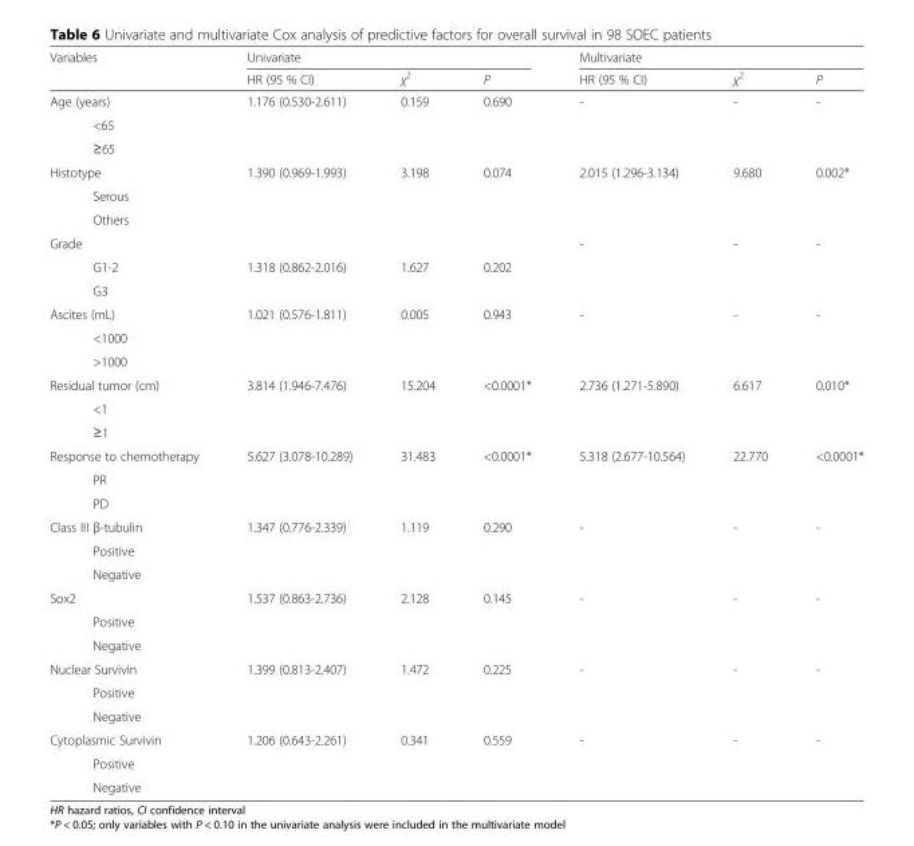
<table><thead><tr><td rowspan="2">Variables</td><td colspan="3">Univariate</td><td colspan="3">Multivariate</td></tr><tr><td>HR (95 % CI)</td><td>χ<sup>2</sup></td><td>P</td><td>HR (95 % CI)</td><td>χ<sup>2</sup></td><td>P</td></tr></thead><tbody><tr><td>Age (years)</td><td>1.176 (0.530-2.611)</td><td>0.159</td><td>0.690</td><td>-</td><td>-</td><td>-</td></tr><tr><td colspan="7">&lt;65</td></tr><tr><td colspan="7">≥65</td></tr><tr><td>Histotype</td><td>1.390 (0.969-1.993)</td><td>3.198</td><td>0.074</td><td>2.015 (1.296-3.134)</td><td>9.680</td><td>0.002*</td></tr><tr><td colspan="7">Serous</td></tr><tr><td colspan="7">Others</td></tr><tr><td>Grade</td><td></td><td></td><td></td><td>-</td><td>-</td><td>-</td></tr><tr><td>G1-2</td><td>1.318 (0.862-2.016)</td><td>1.627</td><td>0.202</td><td></td><td></td><td></td></tr><tr><td colspan="7">G3</td></tr><tr><td>Ascites (mL)</td><td>1.021 (0.576-1.811)</td><td>0.005</td><td>0.943</td><td>-</td><td>-</td><td>-</td></tr><tr><td colspan="7">&lt;1000</td></tr><tr><td colspan="7">&gt;1000</td></tr><tr><td>Residual tumor (cm)</td><td>3.814 (1.946-7.476)</td><td>15.204</td><td>&lt;0.0001*</td><td>2.736 (1.271-5.890)</td><td>6.617</td><td>0.010*</td></tr><tr><td colspan="7">&lt;1</td></tr><tr><td colspan="7">≥1</td></tr><tr><td>Response to chemotherapy</td><td>5.627 (3.078-10.289)</td><td>31.483</td><td>&lt;0.0001*</td><td>5.318 (2.677-10.564)</td><td>22.770</td><td>&lt;0.0001*</td></tr><tr><td colspan="7">PR</td></tr><tr><td colspan="7">PD</td></tr><tr><td>Class III β-tubulin</td><td>1.347 (0.776-2.339)</td><td>1.119</td><td>0.290</td><td>-</td><td>-</td><td>-</td></tr><tr><td colspan="7">Positive</td></tr><tr><td colspan="7">Negative</td></tr><tr><td>Sox2</td><td>1.537 (0.863-2.736)</td><td>2.128</td><td>0.145</td><td>-</td><td>-</td><td>-</td></tr><tr><td colspan="7">Positive</td></tr><tr><td colspan="7">Negative</td></tr><tr><td>Nuclear Survivin</td><td>1.399 (0.813-2.407)</td><td>1.472</td><td>0.225</td><td>-</td><td>-</td><td>-</td></tr><tr><td colspan="7">Positive</td></tr><tr><td colspan="7">Negative</td></tr><tr><td>Cytoplasmic Survivin</td><td>1.206 (0.643-2.261)</td><td>0.341</td><td>0.559</td><td>-</td><td>-</td><td>-</td></tr><tr><td colspan="7">Positive</td></tr><tr><td>Negative</td><td></td><td></td><td></td><td></td><td></td><td></td></tr></tbody></table>